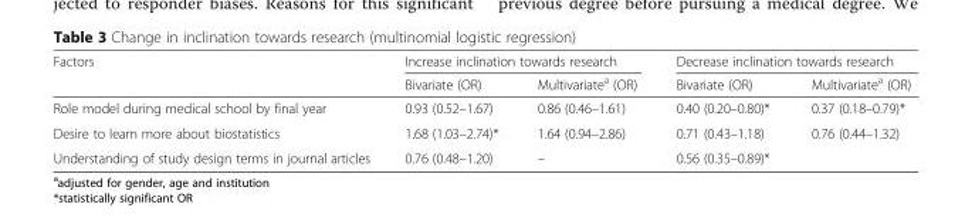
<table><thead><tr><td rowspan="2">Factors</td><td colspan="2">Increase inclination towards research</td><td colspan="2">Decrease inclination towards research</td></tr><tr><td>Bivariate (OR)</td><td>Multivariate<sup>a</sup> (OR)</td><td>Bivariate (OR)</td><td>Multivariate<sup>a</sup> (OR)</td></tr></thead><tbody><tr><td>Role model during medical school by final year</td><td>0.93 (0.52–1.67)</td><td>0.86 (0.46–1.61)</td><td>0.40 (0.20–0.80)*</td><td>0.37 (0.18–0.79)*</td></tr><tr><td>Desire to learn more about biostatistics</td><td>1.68 (1.03–2.74)*</td><td>1.64 (0.94–2.86)</td><td>0.71 (0.43–1.18)</td><td>0.76 (0.44–1.32)</td></tr><tr><td>Understanding of study design terms in journal articles</td><td>0.76 (0.48–1.20)</td><td>–</td><td>0.56 (0.35–0.89)*</td><td></td></tr></tbody></table>